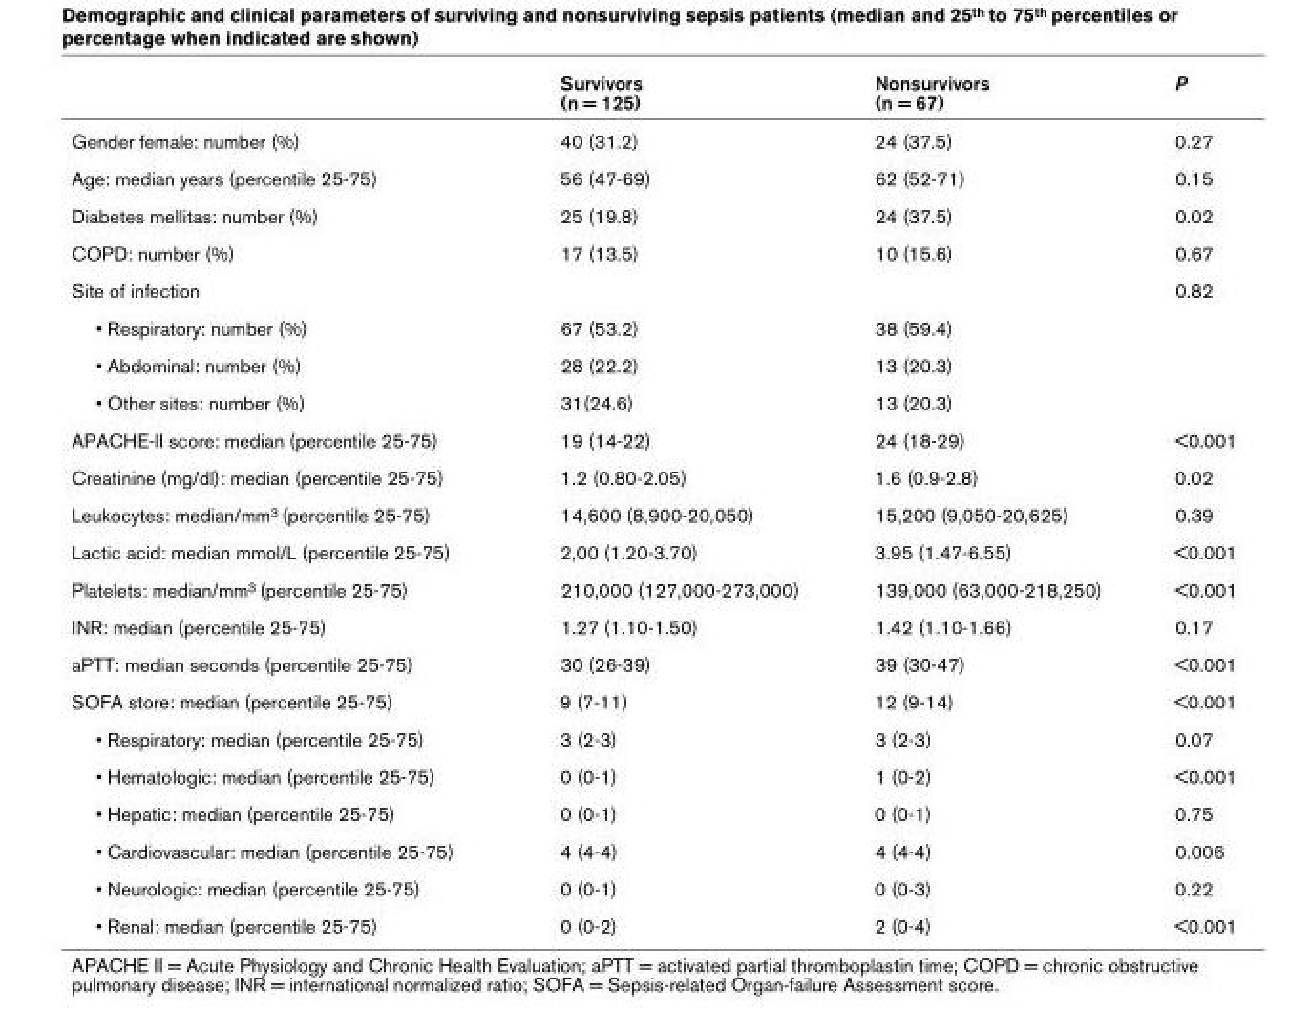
<table><thead><tr><td></td><td>Survivors (n = 125)</td><td>Nonsurvivors (n = 67)</td><td>P</td></tr></thead><tbody><tr><td>Gender female: number (%)</td><td>40 (31.2)</td><td>24 (37.5)</td><td>0.27</td></tr><tr><td>Age: median years (percentile 25-75)</td><td>56 (47-69)</td><td>62 (52-71)</td><td>0.15</td></tr><tr><td>Diabetes mellitas: number (%)</td><td>25 (19.8)</td><td>24 (37.5)</td><td>0.02</td></tr><tr><td>COPD: number (%)</td><td>17 (13.5)</td><td>10 (15.6)</td><td>0.67</td></tr><tr><td>Site of infection</td><td></td><td></td><td>0.82</td></tr><tr><td>• Respiratory: number (%)</td><td>67 (53.2)</td><td>38 (59.4)</td><td></td></tr><tr><td>• Abdominal: number (%)</td><td>28 (22.2)</td><td>13 (20.3)</td><td></td></tr><tr><td>• Other sites: number (%)</td><td>31(24.6)</td><td>13 (20.3)</td><td></td></tr><tr><td>APACHE-II score: median (percentile 25-75)</td><td>19 (14-22)</td><td>24 (18-29)</td><td>&lt;0.001</td></tr><tr><td>Creatinine (mg/dl): median (percentile 25-75)</td><td>1.2 (0.80-2.05)</td><td>1.6 (0.9-2.8)</td><td>0.02</td></tr><tr><td>Leukocytes: median/mm<sup>3</sup> (percentile 25-75)</td><td>14,600 (8,900-20,050)</td><td>15,200 (9,050-20,625)</td><td>0.39</td></tr><tr><td>Lactic acid: median mmol/L (percentile 25-75)</td><td>2,00 (1.20-3.70)</td><td>3.95 (1.47-6.55)</td><td>&lt;0.001</td></tr><tr><td>Platelets: median/mm<sup>3</sup> (percentile 25-75)</td><td>210,000 (127,000-273,000)</td><td>139,000 (63,000-218,250)</td><td>&lt;0.001</td></tr><tr><td>INR: median (percentile 25-75)</td><td>1.27 (1.10-1.50)</td><td>1.42 (1.10-1.66)</td><td>0.17</td></tr><tr><td>aPTT: median seconds (percentile 25-75)</td><td>30 (26-39)</td><td>39 (30-47)</td><td>&lt;0.001</td></tr><tr><td>SOFA store: median (percentile 25-75)</td><td>9 (7-11)</td><td>12 (9-14)</td><td>&lt;0.001</td></tr><tr><td>• Respiratory: median (percentile 25-75)</td><td>3 (2-3)</td><td>3 (2-3)</td><td>0.07</td></tr><tr><td>• Hematologic: median (percentile 25-75)</td><td>0 (0-1)</td><td>1 (0-2)</td><td>&lt;0.001</td></tr><tr><td>• Hepatic: median (percentile 25-75)</td><td>0 (0-1)</td><td>0 (0-1)</td><td>0.75</td></tr><tr><td>• Cardiovascular: median (percentile 25-75)</td><td>4 (4-4)</td><td>4 (4-4)</td><td>0.006</td></tr><tr><td>• Neurologic: median (percentile 25-75)</td><td>0 (0-1)</td><td>0 (0-3)</td><td>0.22</td></tr><tr><td>• Renal: median (percentile 25-75)</td><td>0 (0-2)</td><td>2 (0-4)</td><td>&lt;0.001</td></tr></tbody></table>